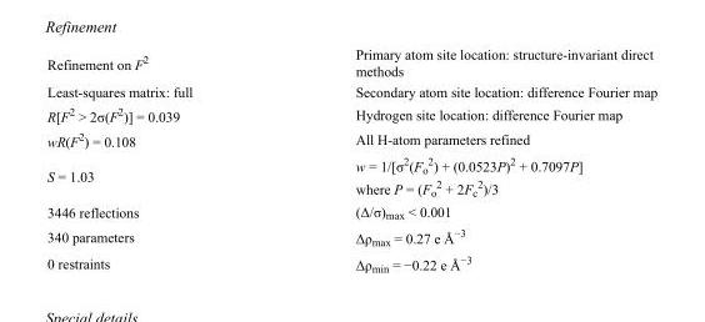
<table><tbody><tr><td>Refinement on F<sup>2</sup></td><td>Primary atom site location: structure-invariant direct methods</td></tr><tr><td>Least-squares matrix: full</td><td>Secondary atom site location: difference Fourier map</td></tr><tr><td>R[F<sup>2</sup> &gt; 2σ(F<sup>2</sup>)] = 0.039</td><td>Hydrogen site location: difference Fourier map</td></tr><tr><td>wR(F<sup>2</sup>) = 0.108</td><td>All H-atom parameters refined</td></tr><tr><td>S = 1.03</td><td>w = 1/[σ<sup>2</sup>(F<sub>o</sub> <sup>2</sup>) + (0.0523P)<sup>2</sup> + 0.7097P] where P = (F<sub>o</sub> <sup>2</sup> + 2F<sub>c</sub> <sup>2</sup>)/3</td></tr><tr><td>3446 reflections</td><td>(Δ/σ)<sub>max</sub> &lt; 0.001</td></tr><tr><td>340 parameters</td><td>Δρ<sub>max</sub> = 0.27 e Å<sup>−3</sup></td></tr><tr><td>0 restraints</td><td>Δρ<sub>min</sub> = −0.22 e Å<sup>−3</sup></td></tr></tbody></table>